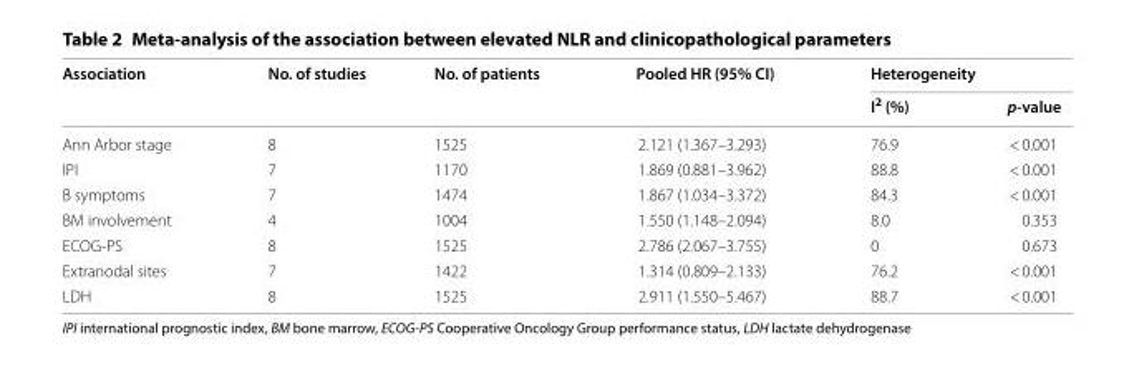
<table><thead><tr><td rowspan="2">Association</td><td rowspan="2">No. of studies</td><td rowspan="2">No. of patients</td><td rowspan="2">Pooled HR (95% CI)</td><td colspan="2">Heterogeneity</td></tr><tr><td>I<sup>2</sup> (%)</td><td>p-value</td></tr></thead><tbody><tr><td>Ann Arbor stage</td><td>8</td><td>1525</td><td>2.121 (1.367–3.293)</td><td>76.9</td><td>&lt; 0.001</td></tr><tr><td>IPI</td><td>7</td><td>1170</td><td>1.869 (0.881–3.962)</td><td>88.8</td><td>&lt; 0.001</td></tr><tr><td>B symptoms</td><td>7</td><td>1474</td><td>1.867 (1.034–3.372)</td><td>84.3</td><td>&lt; 0.001</td></tr><tr><td>BM involvement</td><td>4</td><td>1004</td><td>1.550 (1.148–2.094)</td><td>8.0</td><td>0.353</td></tr><tr><td>ECOG-PS</td><td>8</td><td>1525</td><td>2.786 (2.067–3.755)</td><td>0</td><td>0.673</td></tr><tr><td>Extranodal sites</td><td>7</td><td>1422</td><td>1.314 (0.809–2.133)</td><td>76.2</td><td>&lt; 0.001</td></tr><tr><td>LDH</td><td>8</td><td>1525</td><td>2.911 (1.550–5.467)</td><td>88.7</td><td>&lt; 0.001</td></tr></tbody></table>